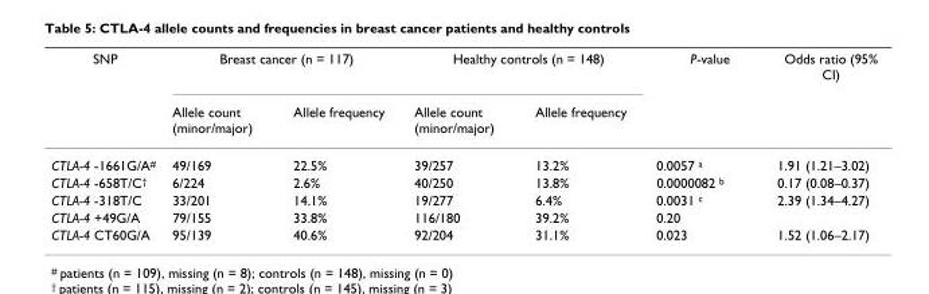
<table><thead><tr><td rowspan="2">SNP</td><td colspan="2">Breast cancer (n = 117)</td><td colspan="2">Healthy controls (n = 148)</td><td rowspan="2">P-value</td><td rowspan="2">Odds ratio (95% CI)</td></tr><tr><td>Allele count (minor/major)</td><td>Allele frequency</td><td>Allele count (minor/major)</td><td>Allele frequency</td></tr></thead><tbody><tr><td>CTLA-4 -1661G/A<sup>#</sup></td><td>49/169</td><td>22.5%</td><td>39/257</td><td>13.2%</td><td>0.0057 <sup>a</sup></td><td>1.91 (1.21–3.02)</td></tr><tr><td>CTLA-4 -658T/C<sup>†</sup></td><td>6/224</td><td>2.6%</td><td>40/250</td><td>13.8%</td><td>0.0000082 <sup>b</sup></td><td>0.17 (0.08–0.37)</td></tr><tr><td>CTLA-4 -318T/C</td><td>33/201</td><td>14.1%</td><td>19/277</td><td>6.4%</td><td>0.0031 <sup>c</sup></td><td>2.39 (1.34–4.27)</td></tr><tr><td>CTLA-4 +49G/A</td><td>79/155</td><td>33.8%</td><td>116/180</td><td>39.2%</td><td>0.20</td><td></td></tr><tr><td>CTLA-4 CT60G/A</td><td>95/139</td><td>40.6%</td><td>92/204</td><td>31.1%</td><td>0.023</td><td>1.52 (1.06–2.17)</td></tr></tbody></table>